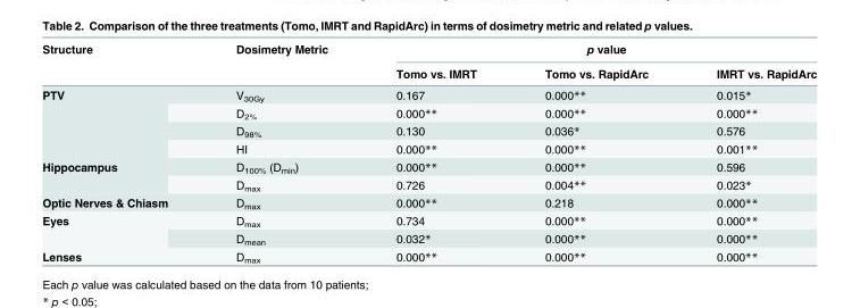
<table><thead><tr><td rowspan="2">Structure</td><td rowspan="2">Dosimetry Metric</td><td colspan="3">p value</td></tr><tr><td>Tomo vs. IMRT</td><td>Tomo vs. RapidArc</td><td>IMRT vs. RapidArc</td></tr></thead><tbody><tr><td rowspan="4">PTV</td><td>V<sub>30Gy</sub></td><td>0.167</td><td>0.000**</td><td>0.015*</td></tr><tr><td>D<sub>2%</sub></td><td>0.000**</td><td>0.000**</td><td>0.000**</td></tr><tr><td>D<sub>98%</sub></td><td>0.130</td><td>0.036*</td><td>0.576</td></tr><tr><td>HI</td><td>0.000**</td><td>0.000**</td><td>0.001**</td></tr><tr><td rowspan="2">Hippocampus</td><td>D<sub>100%</sub> (D<sub>min</sub>)</td><td>0.000**</td><td>0.000**</td><td>0.596</td></tr><tr><td>D<sub>max</sub></td><td>0.726</td><td>0.004**</td><td>0.023*</td></tr><tr><td>Optic Nerves &amp; Chiasm</td><td>D<sub>max</sub></td><td>0.000**</td><td>0.218</td><td>0.000**</td></tr><tr><td rowspan="2">Eyes</td><td>D<sub>max</sub></td><td>0.734</td><td>0.000**</td><td>0.000**</td></tr><tr><td>D<sub>mean</sub></td><td>0.032*</td><td>0.000**</td><td>0.000**</td></tr><tr><td>Lenses</td><td>D<sub>max</sub></td><td>0.000**</td><td>0.000**</td><td>0.000**</td></tr></tbody></table>